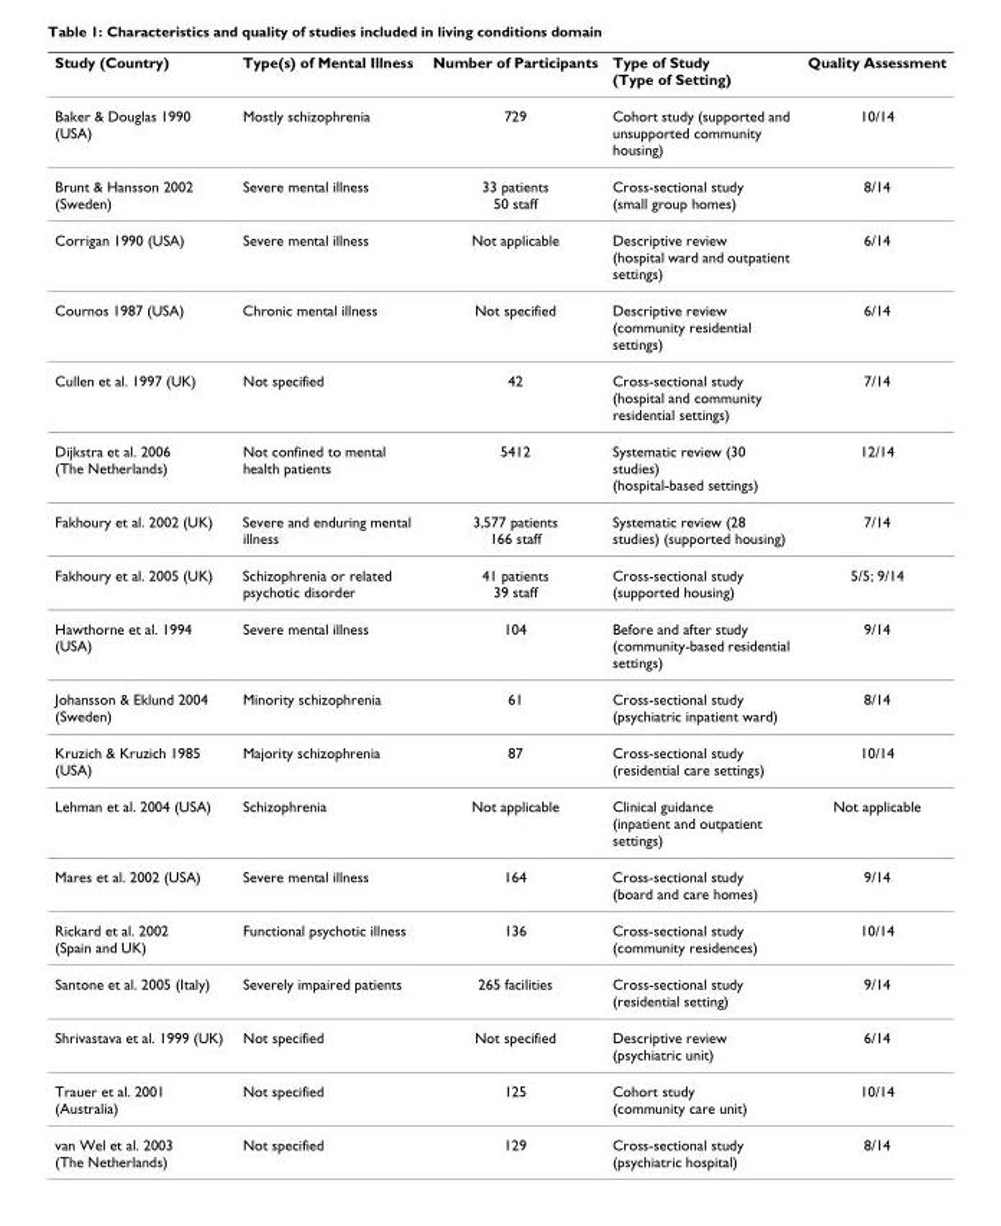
<table><thead><tr><td>Study (Country)</td><td>Type(s) of Mental Illness</td><td>Number of Participants</td><td>Type of Study (Type of Setting)</td><td>Quality Assessment</td></tr></thead><tbody><tr><td>Baker &amp; Douglas 1990 (USA)</td><td>Mostly schizophrenia</td><td>729</td><td>Cohort study (supported and unsupported community housing)</td><td>10/14</td></tr><tr><td>Brunt &amp; Hansson 2002 (Sweden)</td><td>Severe mental illness</td><td>33 patients 50 staff</td><td>Cross-sectional study (small group homes)</td><td>8/14</td></tr><tr><td>Corrigan 1990 (USA)</td><td>Severe mental illness</td><td>Not applicable</td><td>Descriptive review (hospital ward and outpatient settings)</td><td>6/14</td></tr><tr><td>Cournos 1987 (USA)</td><td>Chronic mental illness</td><td>Not specified</td><td>Descriptive review (community residential settings)</td><td>6/14</td></tr><tr><td>Cullen et al. 1997 (UK)</td><td>Not specified</td><td>42</td><td>Cross-sectional study (hospital and community residential settings)</td><td>7/14</td></tr><tr><td>Dijkstra et al. 2006 (The Netherlands)</td><td>Not confined to mental health patients</td><td>5412</td><td>Systematic review (30 studies) (hospital-based settings)</td><td>12/14</td></tr><tr><td>Fakhoury et al. 2002 (UK)</td><td>Severe and enduring mental illness</td><td>3,577 patients 166 staff</td><td>Systematic review (28 studies) (supported housing)</td><td>7/14</td></tr><tr><td>Fakhoury et al. 2005 (UK)</td><td>Schizophrenia or related psychotic disorder</td><td>41 patients 39 staff</td><td>Cross-sectional study (supported housing)</td><td>5/5; 9/14</td></tr><tr><td>Hawthorne et al. 1994 (USA)</td><td>Severe mental illness</td><td>104</td><td>Before and after study (community-based residential settings)</td><td>9/14</td></tr><tr><td>Johansson &amp; Eklund 2004 (Sweden)</td><td>Minority schizophrenia</td><td>61</td><td>Cross-sectional study (psychiatric inpatient ward)</td><td>8/14</td></tr><tr><td>Kruzich &amp; Kruzich 1985 (USA)</td><td>Majority schizophrenia</td><td>87</td><td>Cross-sectional study (residential care settings)</td><td>10/14</td></tr><tr><td>Lehman et al. 2004 (USA)</td><td>Schizophrenia</td><td>Not applicable</td><td>Clinical guidance (inpatient and outpatient settings)</td><td>Not applicable</td></tr><tr><td>Mares et al. 2002 (USA)</td><td>Severe mental illness</td><td>164</td><td>Cross-sectional study (board and care homes)</td><td>9/14</td></tr><tr><td>Rickard et al. 2002 (Spain and UK)</td><td>Functional psychotic illness</td><td>136</td><td>Cross-sectional study (community residences)</td><td>10/14</td></tr><tr><td>Santone et al. 2005 (Italy)</td><td>Severely impaired patients</td><td>265 facilities</td><td>Cross-sectional study (residential setting)</td><td>9/14</td></tr><tr><td>Shrivastava et al. 1999 (UK)</td><td>Not specified</td><td>Not specified</td><td>Descriptive review (psychiatric unit)</td><td>6/14</td></tr><tr><td>Trauer et al. 2001 (Australia)</td><td>Not specified</td><td>125</td><td>Cohort study (community care unit)</td><td>10/14</td></tr><tr><td>van Wel et al. 2003 (The Netherlands)</td><td>Not specified</td><td>129</td><td>Cross-sectional study (psychiatric hospital)</td><td>8/14</td></tr></tbody></table>